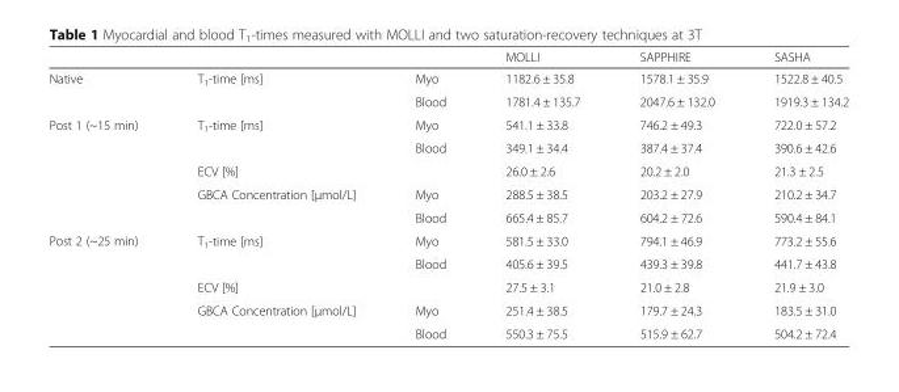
<table><thead><tr><td></td><td></td><td></td><td>MOLLI</td><td>SAPPHIRE</td><td>SASHA</td></tr></thead><tbody><tr><td rowspan="2">Native</td><td rowspan="2">T<sub>1</sub>-time [ms]</td><td>Myo</td><td>1182.6 ± 35.8</td><td>1578.1 ± 35.9</td><td>1522.8 ± 40.5</td></tr><tr><td>Blood</td><td>1781.4 ± 135.7</td><td>2047.6 ± 132.0</td><td>1919.3 ± 134.2</td></tr><tr><td rowspan="5">Post 1 (~15 min)</td><td rowspan="2">T<sub>1</sub>-time [ms]</td><td>Myo</td><td>541.1 ± 33.8</td><td>746.2 ± 49.3</td><td>722.0 ± 57.2</td></tr><tr><td>Blood</td><td>349.1 ± 34.4</td><td>387.4 ± 37.4</td><td>390.6 ± 42.6</td></tr><tr><td colspan="2">ECV [%]</td><td>26.0 ± 2.6</td><td>20.2 ± 2.0</td><td>21.3 ± 2.5</td></tr><tr><td rowspan="2">GBCA Concentration [μmol/L]</td><td>Myo</td><td>288.5 ± 38.5</td><td>203.2 ± 27.9</td><td>210.2 ± 34.7</td></tr><tr><td>Blood</td><td>665.4 ± 85.7</td><td>604.2 ± 72.6</td><td>590.4 ± 84.1</td></tr><tr><td rowspan="5">Post 2 (~25 min)</td><td rowspan="2">T<sub>1</sub>-time [ms]</td><td>Myo</td><td>581.5 ± 33.0</td><td>794.1 ± 46.9</td><td>773.2 ± 55.6</td></tr><tr><td>Blood</td><td>405.6 ± 39.5</td><td>439.3 ± 39.8</td><td>441.7 ± 43.8</td></tr><tr><td colspan="2">ECV [%]</td><td>27.5 ± 3.1</td><td>21.0 ± 2.8</td><td>21.9 ± 3.0</td></tr><tr><td rowspan="2">GBCA Concentration [μmol/L]</td><td>Myo</td><td>251.4 ± 38.5</td><td>179.7 ± 24.3</td><td>183.5 ± 31.0</td></tr><tr><td>Blood</td><td>550.3 ± 75.5</td><td>515.9 ± 62.7</td><td>504.2 ± 72.4</td></tr></tbody></table>